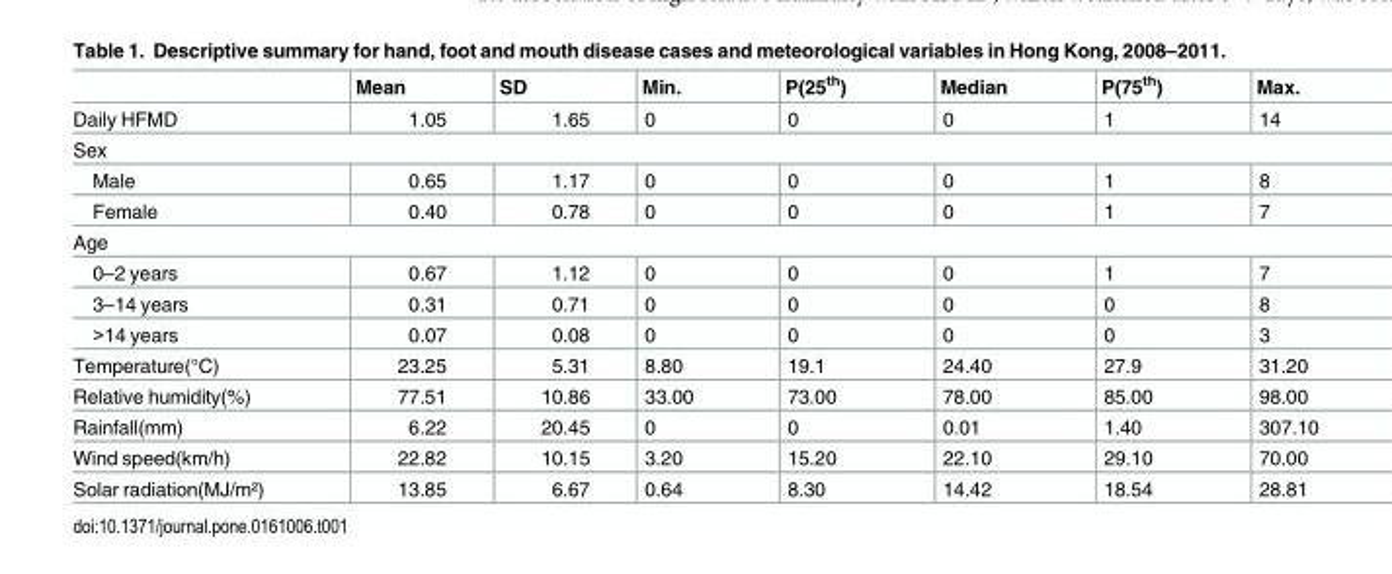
<table><thead><tr><td></td><td>Mean</td><td>SD</td><td>Min.</td><td>P(25<sup>th</sup>)</td><td>Median</td><td>P(75<sup>th</sup>)</td><td>Max.</td></tr></thead><tbody><tr><td>Daily HFMD</td><td>1.05</td><td>1.65</td><td>0</td><td>0</td><td>0</td><td>1</td><td>14</td></tr><tr><td colspan="8">Sex</td></tr><tr><td>Male</td><td>0.65</td><td>1.17</td><td>0</td><td>0</td><td>0</td><td>1</td><td>8</td></tr><tr><td>Female</td><td>0.40</td><td>0.78</td><td>0</td><td>0</td><td>0</td><td>1</td><td>7</td></tr><tr><td colspan="8">Age</td></tr><tr><td>0–2 years</td><td>0.67</td><td>1.12</td><td>0</td><td>0</td><td>0</td><td>1</td><td>7</td></tr><tr><td>3–14 years</td><td>0.31</td><td>0.71</td><td>0</td><td>0</td><td>0</td><td>0</td><td>8</td></tr><tr><td>&gt;14 years</td><td>0.07</td><td>0.08</td><td>0</td><td>0</td><td>0</td><td>0</td><td>3</td></tr><tr><td>Temperature(°C)</td><td>23.25</td><td>5.31</td><td>8.80</td><td>19.1</td><td>24.40</td><td>27.9</td><td>31.20</td></tr><tr><td>Relative humidity(%)</td><td>77.51</td><td>10.86</td><td>33.00</td><td>73.00</td><td>78.00</td><td>85.00</td><td>98.00</td></tr><tr><td>Rainfall(mm)</td><td>6.22</td><td>20.45</td><td>0</td><td>0</td><td>0.01</td><td>1.40</td><td>307.10</td></tr><tr><td>Wind speed(km/h)</td><td>22.82</td><td>10.15</td><td>3.20</td><td>15.20</td><td>22.10</td><td>29.10</td><td>70.00</td></tr><tr><td>Solar radiation(MJ/m²)</td><td>13.85</td><td>6.67</td><td>0.64</td><td>8.30</td><td>14.42</td><td>18.54</td><td>28.81</td></tr></tbody></table>